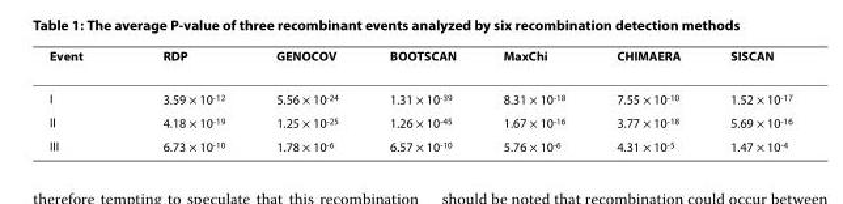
<table><thead><tr><td>Event</td><td>RDP</td><td>GENOCOV</td><td>BOOTSCAN</td><td>MaxChi</td><td>CHIMAERA</td><td>SISCAN</td></tr></thead><tbody><tr><td>I</td><td>3.59 × 10<sup>-12</sup></td><td>5.56 × 10<sup>-24</sup></td><td>1.31 × 10<sup>-39</sup></td><td>8.31 × 10<sup>-18</sup></td><td>7.55 × 10<sup>-10</sup></td><td>1.52 × 10<sup>-17</sup></td></tr><tr><td>II</td><td>4.18 × 10<sup>-19</sup></td><td>1.25 × 10<sup>-25</sup></td><td>1.26 × 10<sup>-45</sup></td><td>1.67 × 10<sup>-16</sup></td><td>3.77 × 10<sup>-18</sup></td><td>5.69 × 10<sup>-16</sup></td></tr><tr><td>III</td><td>6.73 × 10<sup>-10</sup></td><td>1.78 × 10<sup>-6</sup></td><td>6.57 × 10<sup>-10</sup></td><td>5.76 × 10<sup>-6</sup></td><td>4.31 × 10<sup>-5</sup></td><td>1.47 × 10<sup>-4</sup></td></tr></tbody></table>